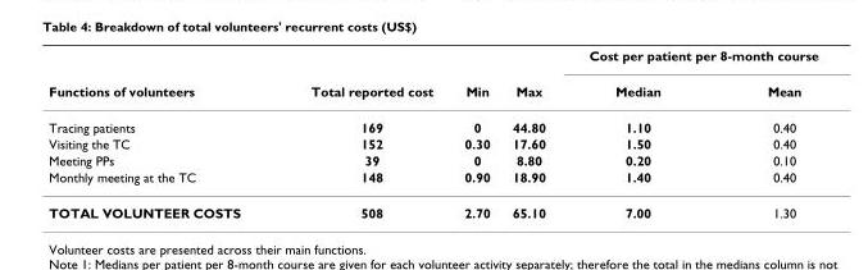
<table><thead><tr><td rowspan="2">Functions of volunteers</td><td rowspan="2">Total reported cost</td><td rowspan="2">Min</td><td rowspan="2">Max</td><td colspan="2">Cost per patient per 8-month course</td></tr><tr><td>Median</td><td>Mean</td></tr></thead><tbody><tr><td>Tracing patients</td><td>169</td><td>0</td><td>44.80</td><td>1.10</td><td>0.40</td></tr><tr><td>Visiting the TC</td><td>152</td><td>0.30</td><td>17.60</td><td>1.50</td><td>0.40</td></tr><tr><td>Meeting PPs</td><td>39</td><td>0</td><td>8.80</td><td>0.20</td><td>0.10</td></tr><tr><td>Monthly meeting at the TC</td><td>148</td><td>0.90</td><td>18.90</td><td>1.40</td><td>0.40</td></tr><tr><td>TOTAL VOLUNTEER COSTS</td><td>508</td><td>2.70</td><td>65.10</td><td>7.00</td><td>1.30</td></tr></tbody></table>